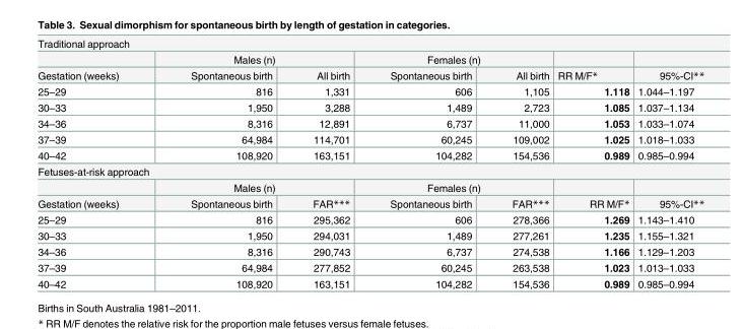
<table><tbody><tr><td colspan="7">Traditional approach</td></tr><tr><td></td><td colspan="2">Males (n)</td><td colspan="2">Females (n)</td><td></td><td></td></tr><tr><td>Gestation (weeks)</td><td>Spontaneous birth</td><td>All birth</td><td>Spontaneous birth</td><td>All birth</td><td>RR M/F*</td><td>95%-CI**</td></tr><tr><td>25–29</td><td>816</td><td>1,331</td><td>606</td><td>1,105</td><td>1.118</td><td>1.044–1.197</td></tr><tr><td>30–33</td><td>1,950</td><td>3,288</td><td>1,489</td><td>2,723</td><td>1.085</td><td>1.037–1.134</td></tr><tr><td>34–36</td><td>8,316</td><td>12,891</td><td>6,737</td><td>11,000</td><td>1.053</td><td>1.033–1.074</td></tr><tr><td>37–39</td><td>64,984</td><td>114,701</td><td>60,245</td><td>109,002</td><td>1.025</td><td>1.018–1.033</td></tr><tr><td>40–42</td><td>108,920</td><td>163,151</td><td>104,282</td><td>154,536</td><td>0.989</td><td>0.985–0.994</td></tr><tr><td colspan="7">Fetuses-at-risk approach</td></tr><tr><td></td><td colspan="2">Males (n)</td><td colspan="2">Females (n)</td><td></td><td></td></tr><tr><td>Gestation (weeks)</td><td>Spontaneous birth</td><td>FAR***</td><td>Spontaneous birth</td><td>FAR***</td><td>RR M/F*</td><td>95%-CI**</td></tr><tr><td>25–29</td><td>816</td><td>295,362</td><td>606</td><td>278,366</td><td>1.269</td><td>1.143–1.410</td></tr><tr><td>30–33</td><td>1,950</td><td>294,031</td><td>1,489</td><td>277,261</td><td>1.235</td><td>1.155–1.321</td></tr><tr><td>34–36</td><td>8,316</td><td>290,743</td><td>6,737</td><td>274,538</td><td>1.166</td><td>1.129–1.203</td></tr><tr><td>37–39</td><td>64,984</td><td>277,852</td><td>60,245</td><td>263,538</td><td>1.023</td><td>1.013–1.033</td></tr><tr><td>40–42</td><td>108,920</td><td>163,151</td><td>104,282</td><td>154,536</td><td>0.989</td><td>0.985–0.994</td></tr></tbody></table>